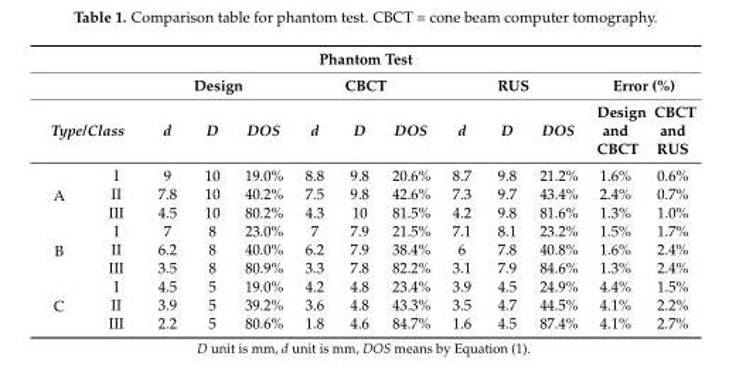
<table><thead><tr><td colspan="13">Phantom Test</td></tr><tr><td></td><td></td><td colspan="3">Design</td><td colspan="3">CBCT</td><td colspan="3">RUS</td><td colspan="2">Error (%)</td></tr><tr><td colspan="2">Type/Class</td><td>d</td><td>D</td><td>DOS</td><td>d</td><td>D</td><td>DOS</td><td>d</td><td>D</td><td>DOS</td><td>Design and CBCT</td><td>CBCT and RUS</td></tr></thead><tbody><tr><td rowspan="3">A</td><td>I</td><td>9</td><td>10</td><td>19.0%</td><td>8.8</td><td>9.8</td><td>20.6%</td><td>8.7</td><td>9.8</td><td>21.2%</td><td>1.6%</td><td>0.6%</td></tr><tr><td>II</td><td>7.8</td><td>10</td><td>40.2%</td><td>7.5</td><td>9.8</td><td>42.6%</td><td>7.3</td><td>9.7</td><td>43.4%</td><td>2.4%</td><td>0.7%</td></tr><tr><td>III</td><td>4.5</td><td>10</td><td>80.2%</td><td>4.3</td><td>10</td><td>81.5%</td><td>4.2</td><td>9.8</td><td>81.6%</td><td>1.3%</td><td>1.0%</td></tr><tr><td rowspan="3">B</td><td>I</td><td>7</td><td>8</td><td>23.0%</td><td>7</td><td>7.9</td><td>21.5%</td><td>7.1</td><td>8.1</td><td>23.2%</td><td>1.5%</td><td>1.7%</td></tr><tr><td>II</td><td>6.2</td><td>8</td><td>40.0%</td><td>6.2</td><td>7.9</td><td>38.4%</td><td>6</td><td>7.8</td><td>40.8%</td><td>1.6%</td><td>2.4%</td></tr><tr><td>III</td><td>3.5</td><td>8</td><td>80.9%</td><td>3.3</td><td>7.8</td><td>82.2%</td><td>3.1</td><td>7.9</td><td>84.6%</td><td>1.3%</td><td>2.4%</td></tr><tr><td rowspan="3">C</td><td>I</td><td>4.5</td><td>5</td><td>19.0%</td><td>4.2</td><td>4.8</td><td>23.4%</td><td>3.9</td><td>4.5</td><td>24.9%</td><td>4.4%</td><td>1.5%</td></tr><tr><td>II</td><td>3.9</td><td>5</td><td>39.2%</td><td>3.6</td><td>4.8</td><td>43.3%</td><td>3.5</td><td>4.7</td><td>44.5%</td><td>4.1%</td><td>2.2%</td></tr><tr><td>III</td><td>2.2</td><td>5</td><td>80.6%</td><td>1.8</td><td>4.6</td><td>84.7%</td><td>1.6</td><td>4.5</td><td>87.4%</td><td>4.1%</td><td>2.7%</td></tr></tbody></table>